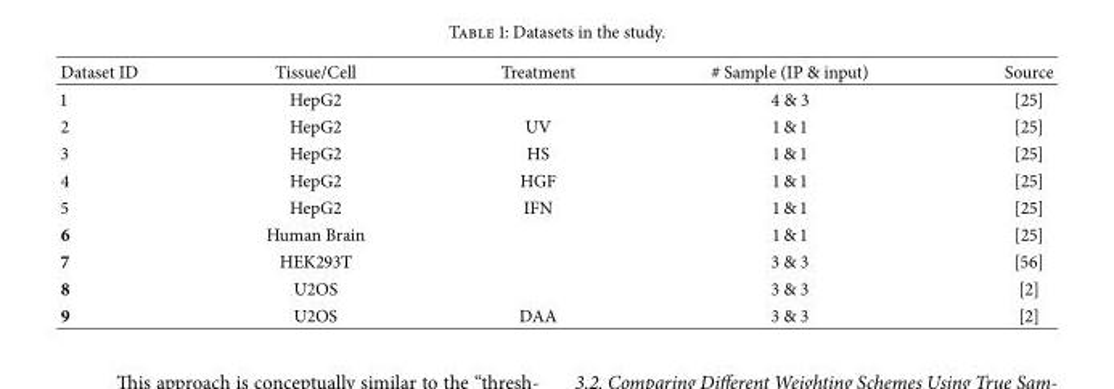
<table><thead><tr><td>Dataset ID</td><td>Tissue/Cell</td><td>Treatment</td><td># Sample (IP &amp; input)</td><td>Source</td></tr></thead><tbody><tr><td>1</td><td>HepG2</td><td></td><td>4 &amp; 3</td><td>[25]</td></tr><tr><td>2</td><td>HepG2</td><td>UV</td><td>1 &amp; 1</td><td>[25]</td></tr><tr><td>3</td><td>HepG2</td><td>HS</td><td>1 &amp; 1</td><td>[25]</td></tr><tr><td>4</td><td>HepG2</td><td>HGF</td><td>1 &amp; 1</td><td>[25]</td></tr><tr><td>5</td><td>HepG2</td><td>IFN</td><td>1 &amp; 1</td><td>[25]</td></tr><tr><td>6</td><td>Human Brain</td><td></td><td>1 &amp; 1</td><td>[25]</td></tr><tr><td>7</td><td>HEK293T</td><td></td><td>3 &amp; 3</td><td>[56]</td></tr><tr><td>8</td><td>U2OS</td><td></td><td>3 &amp; 3</td><td>[2]</td></tr><tr><td>9</td><td>U2OS</td><td>DAA</td><td>3 &amp; 3</td><td>[2]</td></tr></tbody></table>